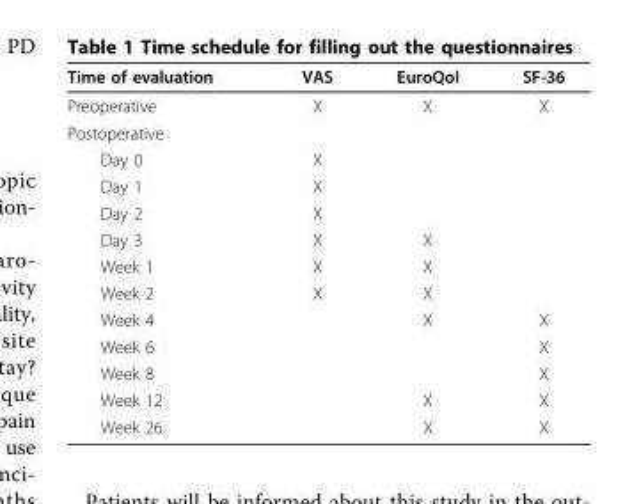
<table><thead><tr><td>Time of evaluation</td><td>VAS</td><td>EuroQol</td><td>SF-36</td></tr></thead><tbody><tr><td>Preoperative</td><td>X</td><td>X</td><td>X</td></tr><tr><td colspan="4">Postoperative</td></tr><tr><td>Day 0</td><td>X</td><td></td><td></td></tr><tr><td>Day 1</td><td>X</td><td></td><td></td></tr><tr><td>Day 2</td><td>X</td><td></td><td></td></tr><tr><td>Day 3</td><td>X</td><td>X</td><td></td></tr><tr><td>Week 1</td><td>X</td><td>X</td><td></td></tr><tr><td>Week 2</td><td>X</td><td>X</td><td></td></tr><tr><td>Week 4</td><td></td><td>X</td><td>X</td></tr><tr><td>Week 6</td><td></td><td></td><td>X</td></tr><tr><td>Week 8</td><td></td><td></td><td>X</td></tr><tr><td>Week 12</td><td></td><td>X</td><td>X</td></tr><tr><td>Week 26</td><td></td><td>X</td><td>X</td></tr></tbody></table>